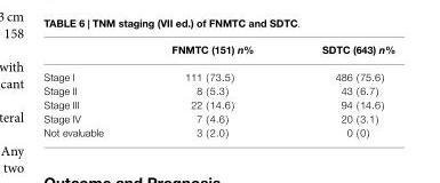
<table><thead><tr><td></td><td>FNMTC (151) n%</td><td>SDTC (643) n%</td></tr></thead><tbody><tr><td>Stage I</td><td>111 (73.5)</td><td>486 (75.6)</td></tr><tr><td>Stage II</td><td>8 (5.3)</td><td>43 (6.7)</td></tr><tr><td>Stage III</td><td>22 (14.6)</td><td>94 (14.6)</td></tr><tr><td>Stage IV</td><td>7 (4.6)</td><td>20 (3.1)</td></tr><tr><td>Not evaluable</td><td>3 (2.0)</td><td>0 (0)</td></tr></tbody></table>